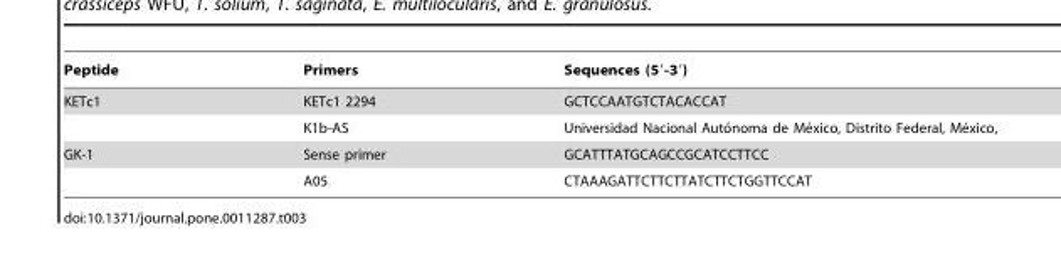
<table><thead><tr><td>Peptide</td><td>Primers</td><td>Sequences (5′-3′)</td></tr></thead><tbody><tr><td rowspan="2">KETc1</td><td>KETc1 2294</td><td>GCTCCAATGTCTACACCAT</td></tr><tr><td>K1b-AS</td><td>Universidad Nacional Auto´noma de Me´xico, Distrito Federal, Me´xico,</td></tr><tr><td rowspan="2">GK-1</td><td>Sense primer</td><td>GCATTTATGCAGCCGCATCCTTCC</td></tr><tr><td>A05</td><td>CTAAAGATTCTTCTTATCTTCTGGTTCCAT</td></tr></tbody></table>